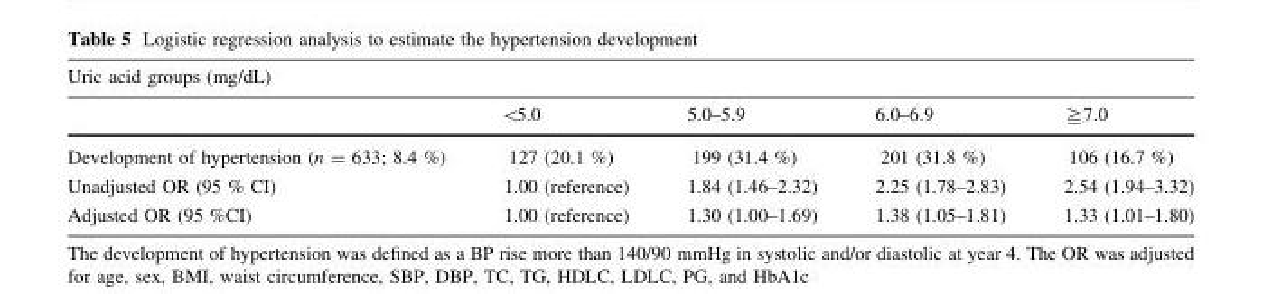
<table><thead><tr><td colspan="5">Uric acid groups (mg/dL)</td></tr><tr><td></td><td>&lt;5.0</td><td>5.0–5.9</td><td>6.0–6.9</td><td>≧7.0</td></tr></thead><tbody><tr><td>Development of hypertension (n = 633; 8.4 %)</td><td>127 (20.1 %)</td><td>199 (31.4 %)</td><td>201 (31.8 %)</td><td>106 (16.7 %)</td></tr><tr><td>Unadjusted OR (95 % CI)</td><td>1.00 (reference)</td><td>1.84 (1.46–2.32)</td><td>2.25 (1.78–2.83)</td><td>2.54 (1.94–3.32)</td></tr><tr><td>Adjusted OR (95 %CI)</td><td>1.00 (reference)</td><td>1.30 (1.00–1.69)</td><td>1.38 (1.05–1.81)</td><td>1.33 (1.01–1.80)</td></tr></tbody></table>